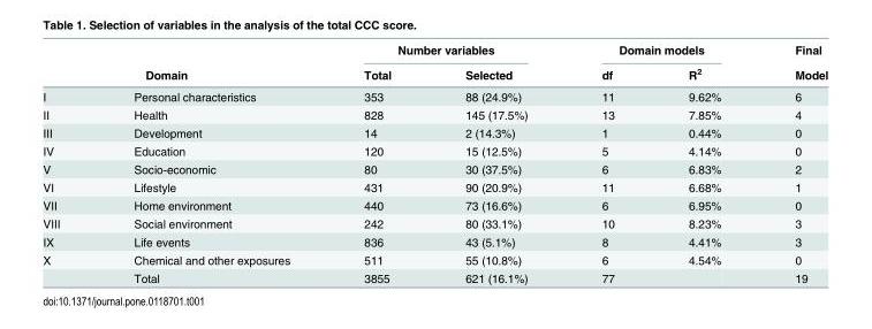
<table><thead><tr><td></td><td></td><td colspan="2">Number variables</td><td colspan="2">Domain models</td><td rowspan="2">Final Model</td></tr><tr><td colspan="2">Domain</td><td>Total</td><td>Selected</td><td>df</td><td>R<sup>2</sup></td></tr></thead><tbody><tr><td>I</td><td>Personal characteristics</td><td>353</td><td>88 (24.9%)</td><td>11</td><td>9.62%</td><td>6</td></tr><tr><td>II</td><td>Health</td><td>828</td><td>145 (17.5%)</td><td>13</td><td>7.85%</td><td>4</td></tr><tr><td>III</td><td>Development</td><td>14</td><td>2 (14.3%)</td><td>1</td><td>0.44%</td><td>0</td></tr><tr><td>IV</td><td>Education</td><td>120</td><td>15 (12.5%)</td><td>5</td><td>4.14%</td><td>0</td></tr><tr><td>V</td><td>Socio-economic</td><td>80</td><td>30 (37.5%)</td><td>6</td><td>6.83%</td><td>2</td></tr><tr><td>VI</td><td>Lifestyle</td><td>431</td><td>90 (20.9%)</td><td>11</td><td>6.68%</td><td>1</td></tr><tr><td>VII</td><td>Home environment</td><td>440</td><td>73 (16.6%)</td><td>6</td><td>6.95%</td><td>0</td></tr><tr><td>VIII</td><td>Social environment</td><td>242</td><td>80 (33.1%)</td><td>10</td><td>8.23%</td><td>3</td></tr><tr><td>IX</td><td>Life events</td><td>836</td><td>43 (5.1%)</td><td>8</td><td>4.41%</td><td>3</td></tr><tr><td rowspan="2">X</td><td>Chemical and other exposures</td><td>511</td><td>55 (10.8%)</td><td>6</td><td>4.54%</td><td>0</td></tr><tr><td>Total</td><td>3855</td><td>621 (16.1%)</td><td>77</td><td></td><td>19</td></tr></tbody></table>